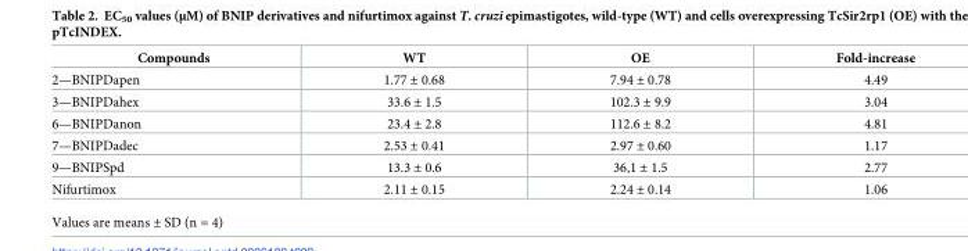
<table><thead><tr><td>Compounds</td><td>WT</td><td>OE</td><td>Fold-increase</td></tr></thead><tbody><tr><td>2—BNIPDapen</td><td>1.77 ± 0.68</td><td>7.94 ± 0.78</td><td>4.49</td></tr><tr><td>3—BNIPDahex</td><td>33.6 ± 1.5</td><td>102.3 ± 9.9</td><td>3.04</td></tr><tr><td>6—BNIPDanon</td><td>23.4 ± 2.8</td><td>112.6 ± 8.2</td><td>4.81</td></tr><tr><td>7—BNIPDadec</td><td>2.53 ± 0.41</td><td>2.97 ± 0.60</td><td>1.17</td></tr><tr><td>9—BNIPSpd</td><td>13.3 ± 0.6</td><td>36,1 ± 1.5</td><td>2.77</td></tr><tr><td>Nifurtimox</td><td>2.11 ± 0.15</td><td>2.24 ± 0.14</td><td>1.06</td></tr></tbody></table>